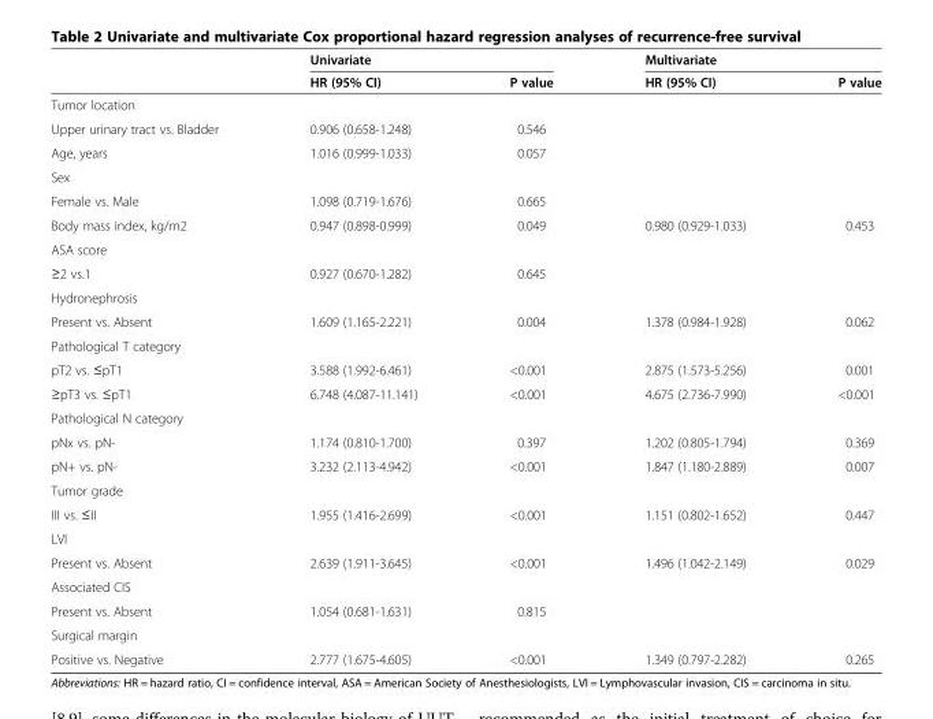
<table><thead><tr><td rowspan="2"></td><td colspan="2">Univariate</td><td colspan="2">Multivariate</td></tr><tr><td>HR (95% CI)</td><td>P value</td><td>HR (95% CI)</td><td>P value</td></tr></thead><tbody><tr><td colspan="5">Tumor location</td></tr><tr><td>Upper urinary tract vs. Bladder</td><td>0.906 (0.658-1.248)</td><td>0.546</td><td></td><td></td></tr><tr><td>Age, years</td><td>1.016 (0.999-1.033)</td><td>0.057</td><td></td><td></td></tr><tr><td colspan="5">Sex</td></tr><tr><td>Female vs. Male</td><td>1.098 (0.719-1.676)</td><td>0.665</td><td></td><td></td></tr><tr><td>Body mass index, kg/m2</td><td>0.947 (0.898-0.999)</td><td>0.049</td><td>0.980 (0.929-1.033)</td><td>0.453</td></tr><tr><td colspan="5">ASA score</td></tr><tr><td>≥2 vs.1</td><td>0.927 (0.670-1.282)</td><td>0.645</td><td></td><td></td></tr><tr><td colspan="5">Hydronephrosis</td></tr><tr><td>Present vs. Absent</td><td>1.609 (1.165-2.221)</td><td>0.004</td><td>1.378 (0.984-1.928)</td><td>0.062</td></tr><tr><td colspan="5">Pathological T category</td></tr><tr><td>pT2 vs. ≤pT1</td><td>3.588 (1.992-6.461)</td><td>&lt;0.001</td><td>2.875 (1.573-5.256)</td><td>0.001</td></tr><tr><td>≥pT3 vs. ≤pT1</td><td>6.748 (4.087-11.141)</td><td>&lt;0.001</td><td>4.675 (2.736-7.990)</td><td>&lt;0.001</td></tr><tr><td colspan="5">Pathological N category</td></tr><tr><td>pNx vs. pN-</td><td>1.174 (0.810-1.700)</td><td>0.397</td><td>1.202 (0.805-1.794)</td><td>0.369</td></tr><tr><td>pN+ vs. pN-</td><td>3.232 (2.113-4.942)</td><td>&lt;0.001</td><td>1.847 (1.180-2.889)</td><td>0.007</td></tr><tr><td colspan="5">Tumor grade</td></tr><tr><td>III vs. ≤II</td><td>1.955 (1.416-2.699)</td><td>&lt;0.001</td><td>1.151 (0.802-1.652)</td><td>0.447</td></tr><tr><td colspan="5">LVI</td></tr><tr><td>Present vs. Absent</td><td>2.639 (1.911-3.645)</td><td>&lt;0.001</td><td>1.496 (1.042-2.149)</td><td>0.029</td></tr><tr><td colspan="5">Associated CIS</td></tr><tr><td>Present vs. Absent</td><td>1.054 (0.681-1.631)</td><td>0.815</td><td></td><td></td></tr><tr><td colspan="5">Surgical margin</td></tr><tr><td>Positive vs. Negative</td><td>2.777 (1.675-4.605)</td><td>&lt;0.001</td><td>1.349 (0.797-2.282)</td><td>0.265</td></tr></tbody></table>